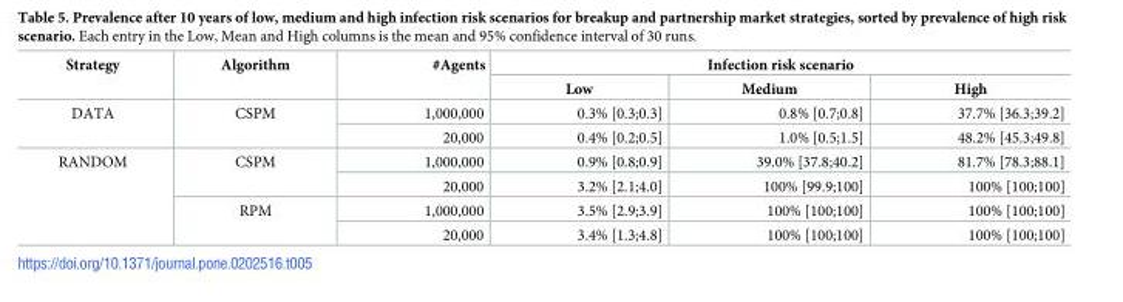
<table><thead><tr><td rowspan="2">Strategy</td><td rowspan="2">Algorithm</td><td rowspan="2">#Agents</td><td colspan="3">Infection risk scenario</td></tr><tr><td>Low</td><td>Medium</td><td>High</td></tr></thead><tbody><tr><td rowspan="2">DATA</td><td rowspan="2">CSPM</td><td>1,000,000</td><td>0.3% [0.3;0.3]</td><td>0.8% [0.7;0.8]</td><td>37.7% [36.3;39.2]</td></tr><tr><td>20,000</td><td>0.4% [0.2;0.5]</td><td>1.0% [0.5;1.5]</td><td>48.2% [45.3;49.8]</td></tr><tr><td rowspan="4">RANDOM</td><td rowspan="2">CSPM</td><td>1,000,000</td><td>0.9% [0.8;0.9]</td><td>39.0% [37.8;40.2]</td><td>81.7% [78.3;88.1]</td></tr><tr><td>20,000</td><td>3.2% [2.1;4.0]</td><td>100% [99.9;100]</td><td>100% [100;100]</td></tr><tr><td rowspan="2">RPM</td><td>1,000,000</td><td>3.5% [2.9;3.9]</td><td>100% [100;100]</td><td>100% [100;100]</td></tr><tr><td>20,000</td><td>3.4% [1.3;4.8]</td><td>100% [100;100]</td><td>100% [100;100]</td></tr></tbody></table>